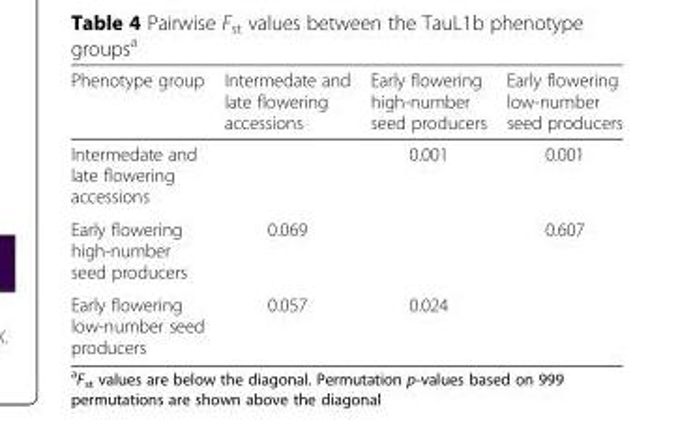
<table><thead><tr><td>Phenotype group</td><td>Intermedate and late flowering accessions</td><td>Early flowering high-number seed producers</td><td>Early flowering low-number seed producers</td></tr></thead><tbody><tr><td>Intermedate and late flowering accessions</td><td></td><td>0.001</td><td>0.001</td></tr><tr><td>Early flowering high-number seed producers</td><td>0.069</td><td></td><td>0.607</td></tr><tr><td>Early flowering low-number seed producers</td><td>0.057</td><td>0.024</td><td></td></tr></tbody></table>